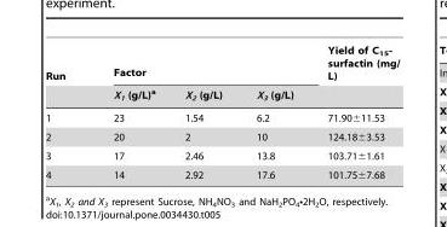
<table><thead><tr><td rowspan="2">Run</td><td colspan="3">Factor</td><td rowspan="2">Yield of C<sub>15</sub>- surfactin (mg/ L)</td></tr><tr><td>X<sub>1</sub> (g/L)<sup>a</sup></td><td>X<sub>2</sub> (g/L)</td><td>X<sub>3</sub> (g/L)</td></tr></thead><tbody><tr><td>1</td><td>23</td><td>1.54</td><td>6.2</td><td>71.90±11.53</td></tr><tr><td>2</td><td>20</td><td>2</td><td>10</td><td>124.18±3.53</td></tr><tr><td>3</td><td>17</td><td>2.46</td><td>13.8</td><td>103.71±1.61</td></tr><tr><td>4</td><td>14</td><td>2.92</td><td>17.6</td><td>101.75±7.68</td></tr></tbody></table>